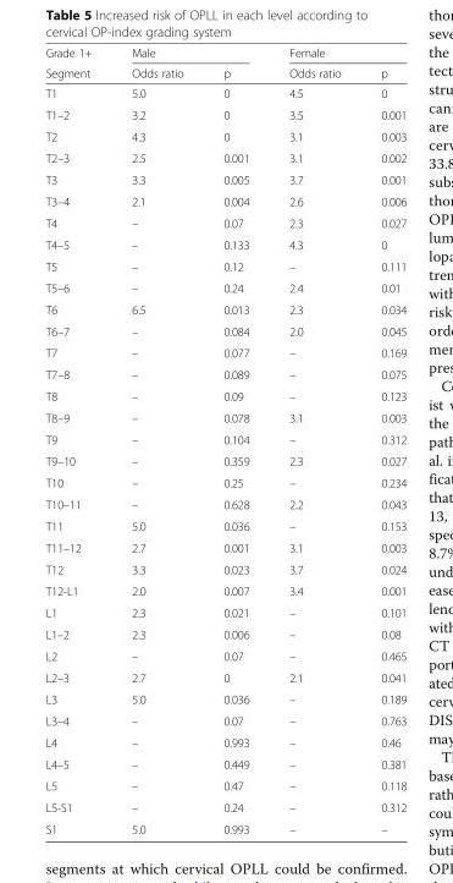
<table><thead><tr><td rowspan="2">Grade 1+ Segment</td><td colspan="2">Male</td><td colspan="2">Female</td></tr><tr><td>Odds ratio</td><td>p</td><td>Odds ratio</td><td>p</td></tr></thead><tbody><tr><td>T1</td><td>5.0</td><td>0</td><td>4.5</td><td>0</td></tr><tr><td>T1–2</td><td>3.2</td><td>0</td><td>3.5</td><td>0.001</td></tr><tr><td>T2</td><td>4.3</td><td>0</td><td>3.1</td><td>0.003</td></tr><tr><td>T2–3</td><td>2.5</td><td>0.001</td><td>3.1</td><td>0.002</td></tr><tr><td>T3</td><td>3.3</td><td>0.005</td><td>3.7</td><td>0.001</td></tr><tr><td>T3–4</td><td>2.1</td><td>0.004</td><td>2.6</td><td>0.006</td></tr><tr><td>T4</td><td>–</td><td>0.07</td><td>2.3</td><td>0.027</td></tr><tr><td>T4–5</td><td>–</td><td>0.133</td><td>4.3</td><td>0</td></tr><tr><td>T5</td><td>–</td><td>0.12</td><td>–</td><td>0.111</td></tr><tr><td>T5–6</td><td>–</td><td>0.24</td><td>2.4</td><td>0.01</td></tr><tr><td>T6</td><td>6.5</td><td>0.013</td><td>2.3</td><td>0.034</td></tr><tr><td>T6–7</td><td>–</td><td>0.084</td><td>2.0</td><td>0.045</td></tr><tr><td>T7</td><td>–</td><td>0.077</td><td>–</td><td>0.169</td></tr><tr><td>T7–8</td><td>–</td><td>0.089</td><td>–</td><td>0.075</td></tr><tr><td>T8</td><td>–</td><td>0.09</td><td>–</td><td>0.123</td></tr><tr><td>T8–9</td><td>–</td><td>0.078</td><td>3.1</td><td>0.003</td></tr><tr><td>T9</td><td>–</td><td>0.104</td><td>–</td><td>0.312</td></tr><tr><td>T9–10</td><td>–</td><td>0.359</td><td>2.3</td><td>0.027</td></tr><tr><td>T10</td><td>–</td><td>0.25</td><td>–</td><td>0.234</td></tr><tr><td>T10–11</td><td>–</td><td>0.628</td><td>2.2</td><td>0.043</td></tr><tr><td>T11</td><td>5.0</td><td>0.036</td><td>–</td><td>0.153</td></tr><tr><td>T11–12</td><td>2.7</td><td>0.001</td><td>3.1</td><td>0.003</td></tr><tr><td>T12</td><td>3.3</td><td>0.023</td><td>3.7</td><td>0.024</td></tr><tr><td>T12-L1</td><td>2.0</td><td>0.007</td><td>3.4</td><td>0.001</td></tr><tr><td>L1</td><td>2.3</td><td>0.021</td><td>–</td><td>0.101</td></tr><tr><td>L1–2</td><td>2.3</td><td>0.006</td><td>–</td><td>0.08</td></tr><tr><td>L2</td><td>–</td><td>0.07</td><td>–</td><td>0.465</td></tr><tr><td>L2–3</td><td>2.7</td><td>0</td><td>2.1</td><td>0.041</td></tr><tr><td>L3</td><td>5.0</td><td>0.036</td><td>–</td><td>0.189</td></tr><tr><td>L3–4</td><td>–</td><td>0.07</td><td>–</td><td>0.763</td></tr><tr><td>L4</td><td>–</td><td>0.993</td><td>–</td><td>0.46</td></tr><tr><td>L4–5</td><td>–</td><td>0.449</td><td>–</td><td>0.381</td></tr><tr><td>L5</td><td>–</td><td>0.47</td><td>–</td><td>0.118</td></tr><tr><td>L5-S1</td><td>–</td><td>0.24</td><td>–</td><td>0.312</td></tr><tr><td>S1</td><td>5.0</td><td>0.993</td><td>–</td><td>–</td></tr></tbody></table>